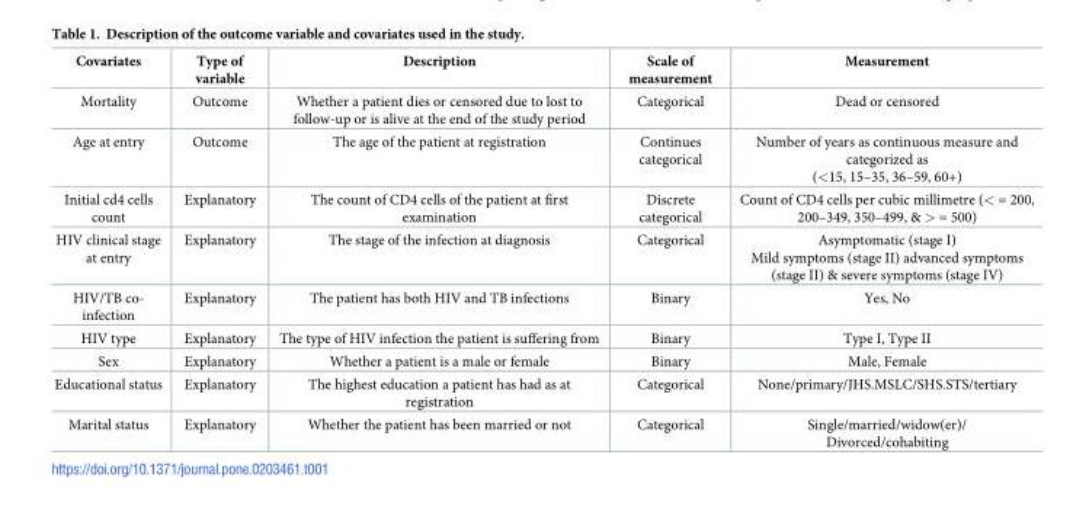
<table><thead><tr><td>Covariates</td><td>Type of variable</td><td>Description</td><td>Scale of measurement</td><td>Measurement</td></tr></thead><tbody><tr><td>Mortality</td><td>Outcome</td><td>Whether a patient dies or censored due to lost to follow-up or is alive at the end of the study period</td><td>Categorical</td><td>Dead or censored</td></tr><tr><td>Age at entry</td><td>Outcome</td><td>The age of the patient at registration</td><td>Continues categorical</td><td>Number of years as continuous measure and categorized as (&lt;15, 15–35, 36–59, 60+)</td></tr><tr><td>Initial cd4 cells count</td><td>Explanatory</td><td>The count of CD4 cells of the patient at first examination</td><td>Discrete categorical</td><td>Count of CD4 cells per cubic millimetre (&lt; = 200, 200–349, 350–499, &amp; &gt; = 500)</td></tr><tr><td>HIV clinical stage at entry</td><td>Explanatory</td><td>The stage of the infection at diagnosis</td><td>Categorical</td><td>Asymptomatic (stage I) Mild symptoms (stage II) advanced symptoms (stage II) &amp; severe symptoms (stage IV)</td></tr><tr><td>HIV/TB co- infection</td><td>Explanatory</td><td>The patient has both HIV and TB infections</td><td>Binary</td><td>Yes, No</td></tr><tr><td>HIV type</td><td>Explanatory</td><td>The type of HIV infection the patient is suffering from</td><td>Binary</td><td>Type I, Type II</td></tr><tr><td>Sex</td><td>Explanatory</td><td>Whether a patient is a male or female</td><td>Binary</td><td>Male, Female</td></tr><tr><td>Educational status</td><td>Explanatory</td><td>The highest education a patient has had as at registration</td><td>Categorical</td><td>None/primary/JHS.MSLC/SHS.STS/tertiary</td></tr><tr><td>Marital status</td><td>Explanatory</td><td>Whether the patient has been married or not</td><td>Categorical</td><td>Single/married/widow(er)/ Divorced/cohabiting</td></tr></tbody></table>